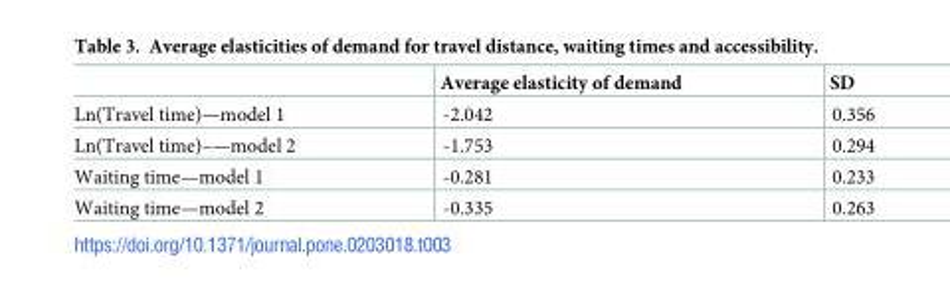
<table><thead><tr><td></td><td>Average elasticity of demand</td><td>SD</td></tr></thead><tbody><tr><td>Ln(Travel time)—model 1</td><td>-2.042</td><td>0.356</td></tr><tr><td>Ln(Travel time)–—model 2</td><td>-1.753</td><td>0.294</td></tr><tr><td>Waiting time—model 1</td><td>-0.281</td><td>0.233</td></tr><tr><td>Waiting time—model 2</td><td>-0.335</td><td>0.263</td></tr></tbody></table>